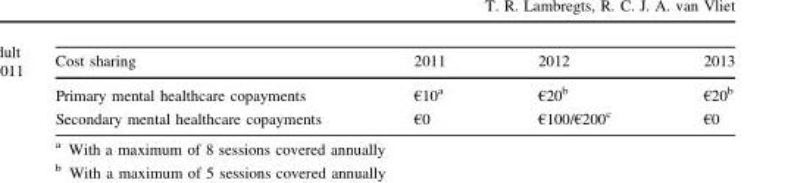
<table><thead><tr><td>Cost sharing</td><td>2011</td><td>2012</td><td>2013</td></tr></thead><tbody><tr><td>Primary mental healthcare copayments</td><td>€10<sup>a</sup></td><td>€20<sup>b</sup></td><td>€20<sup>b</sup></td></tr><tr><td>Secondary mental healthcare copayments</td><td>€0</td><td>€100/€200<sup>c</sup></td><td>€0</td></tr></tbody></table>